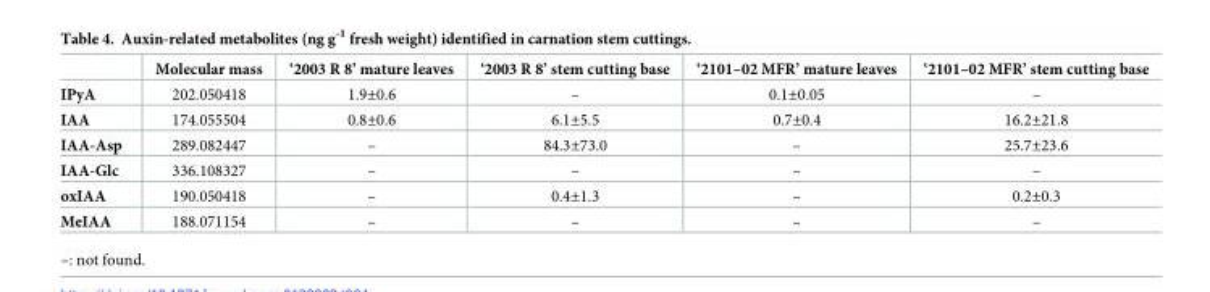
<table><thead><tr><td></td><td>Molecular mass</td><td>‘2003 R 8’ mature leaves</td><td>‘2003 R 8’ stem cutting base</td><td>‘2101–02 MFR’ mature leaves</td><td>‘2101–02 MFR’ stem cutting base</td></tr></thead><tbody><tr><td>IPyA</td><td>202.050418</td><td>1.9±0.6</td><td>–</td><td>0.1±0.05</td><td>–</td></tr><tr><td>IAA</td><td>174.055504</td><td>0.8±0.6</td><td>6.1±5.5</td><td>0.7±0.4</td><td>16.2±21.8</td></tr><tr><td>IAA-Asp</td><td>289.082447</td><td>–</td><td>84.3±73.0</td><td>–</td><td>25.7±23.6</td></tr><tr><td>IAA-Glc</td><td>336.108327</td><td>–</td><td>–</td><td>–</td><td>–</td></tr><tr><td>oxIAA</td><td>190.050418</td><td>–</td><td>0.4±1.3</td><td>–</td><td>0.2±0.3</td></tr><tr><td>MeIAA</td><td>188.071154</td><td>–</td><td>–</td><td>–</td><td>–</td></tr></tbody></table>